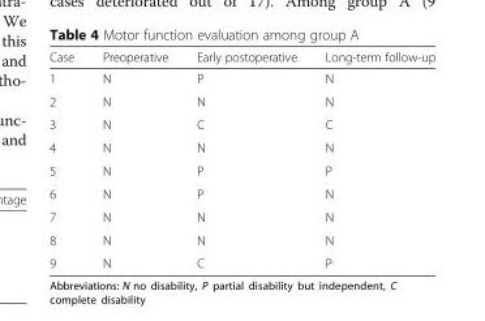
<table><thead><tr><td>Case</td><td>Preoperative</td><td>Early postoperative</td><td>Long-term follow-up</td></tr></thead><tbody><tr><td>1</td><td>N</td><td>P</td><td>N</td></tr><tr><td>2</td><td>N</td><td>N</td><td>N</td></tr><tr><td>3</td><td>N</td><td>C</td><td>C</td></tr><tr><td>4</td><td>N</td><td>N</td><td>N</td></tr><tr><td>5</td><td>N</td><td>P</td><td>P</td></tr><tr><td>6</td><td>N</td><td>P</td><td>N</td></tr><tr><td>7</td><td>N</td><td>N</td><td>N</td></tr><tr><td>8</td><td>N</td><td>N</td><td>N</td></tr><tr><td>9</td><td>N</td><td>C</td><td>P</td></tr></tbody></table>